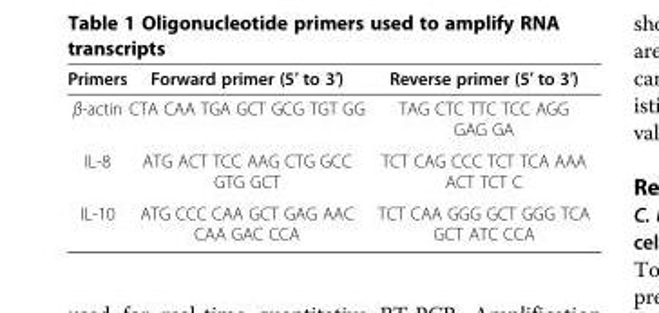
<table><thead><tr><td>Primers</td><td>Forward primer (5′ to 3′)</td><td>Reverse primer (5′ to 3′)</td></tr></thead><tbody><tr><td>β-actin</td><td>CTA CAA TGA GCT GCG TGT GG</td><td>TAG CTC TTC TCC AGG GAG GA</td></tr><tr><td>IL-8</td><td>ATG ACT TCC AAG CTG GCC GTG GCT</td><td>TCT CAG CCC TCT TCA AAA ACT TCT C</td></tr><tr><td>IL-10</td><td>ATG CCC CAA GCT GAG AAC CAA GAC CCA</td><td>TCT CAA GGG GCT GGG TCA GCT ATC CCA</td></tr></tbody></table>